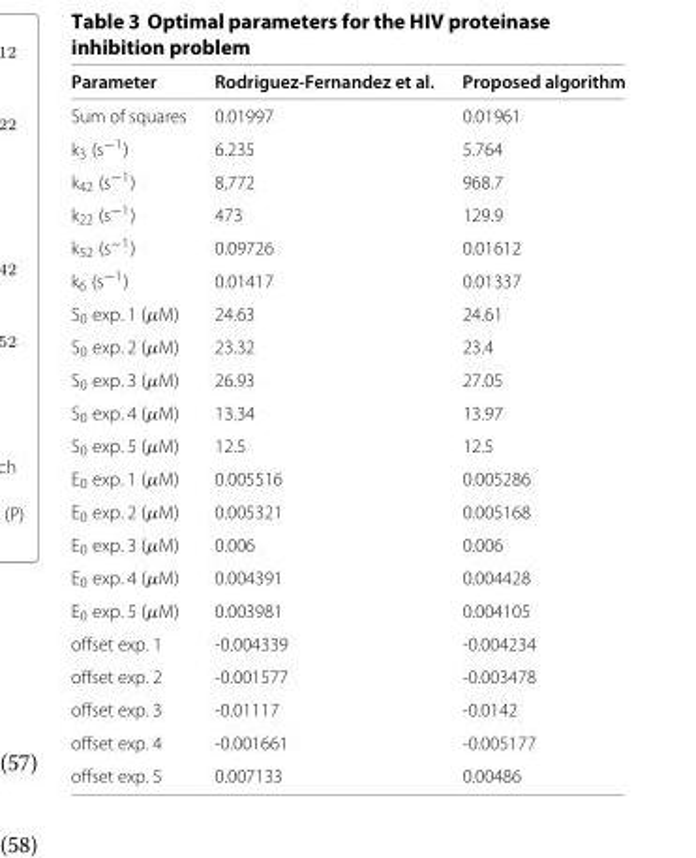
<table><thead><tr><td>Parameter</td><td>Rodriguez-Fernandez et al.</td><td>Proposed algorithm</td></tr></thead><tbody><tr><td>Sum of squares</td><td>0.01997</td><td>0.01961</td></tr><tr><td>k<sub>3</sub> (s<sup>−1</sup>)</td><td>6.235</td><td>5.764</td></tr><tr><td>k<sub>42</sub> (s<sup>−1</sup>)</td><td>8,772</td><td>968.7</td></tr><tr><td>k<sub>22</sub> (s<sup>−1</sup>)</td><td>473</td><td>129.9</td></tr><tr><td>k<sub>52</sub> (s<sup>−1</sup>)</td><td>0.09726</td><td>0.01612</td></tr><tr><td>k<sub>6</sub> (s<sup>−1</sup>)</td><td>0.01417</td><td>0.01337</td></tr><tr><td>S<sub>0</sub> exp. 1 (μM)</td><td>24.63</td><td>24.61</td></tr><tr><td>S<sub>0</sub> exp. 2 (μM)</td><td>23.32</td><td>23.4</td></tr><tr><td>S<sub>0</sub> exp. 3 (μM)</td><td>26.93</td><td>27.05</td></tr><tr><td>S<sub>0</sub> exp. 4 (μM)</td><td>13.34</td><td>13.97</td></tr><tr><td>S<sub>0</sub> exp. 5 (μM)</td><td>12.5</td><td>12.5</td></tr><tr><td>E<sub>0</sub> exp. 1 (μM)</td><td>0.005516</td><td>0.005286</td></tr><tr><td>E<sub>0</sub> exp. 2 (μM)</td><td>0.005321</td><td>0.005168</td></tr><tr><td>E<sub>0</sub> exp. 3 (μM)</td><td>0.006</td><td>0.006</td></tr><tr><td>E<sub>0</sub> exp. 4 (μM)</td><td>0.004391</td><td>0.004428</td></tr><tr><td>E<sub>0</sub> exp. 5 (μM)</td><td>0.003981</td><td>0.004105</td></tr><tr><td>offset exp. 1</td><td>-0.004339</td><td>-0.004234</td></tr><tr><td>offset exp. 2</td><td>-0.001577</td><td>-0.003478</td></tr><tr><td>offset exp. 3</td><td>-0.01117</td><td>-0.0142</td></tr><tr><td>offset exp. 4</td><td>-0.001661</td><td>-0.005177</td></tr><tr><td>offset exp. 5</td><td>0.007133</td><td>0.00486</td></tr></tbody></table>